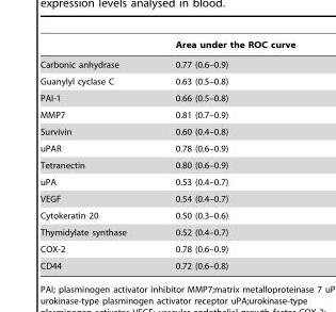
<table><thead><tr><td></td><td>Area under the ROC curve</td></tr></thead><tbody><tr><td>Carbonic anhydrase</td><td>0.77 (0.6–0.9)</td></tr><tr><td>Guanylyl cyclase C</td><td>0.63 (0.5–0.8)</td></tr><tr><td>PAI-1</td><td>0.66 (0.5–0.8)</td></tr><tr><td>MMP7</td><td>0.81 (0.7–0.9)</td></tr><tr><td>Survivin</td><td>0.60 (0.4–0.8)</td></tr><tr><td>uPAR</td><td>0.78 (0.6–0.9)</td></tr><tr><td>Tetranectin</td><td>0.80 (0.6–0.9)</td></tr><tr><td>uPA</td><td>0.53 (0.4–0.7)</td></tr><tr><td>VEGF</td><td>0.54 (0.4–0.7)</td></tr><tr><td>Cytokeratin 20</td><td>0.50 (0.3–0.6)</td></tr><tr><td>Thymidylate synthase</td><td>0.52 (0.4–0.7)</td></tr><tr><td>COX-2</td><td>0.78 (0.6–0.9)</td></tr><tr><td>CD44</td><td>0.72 (0.6–0.8)</td></tr></tbody></table>